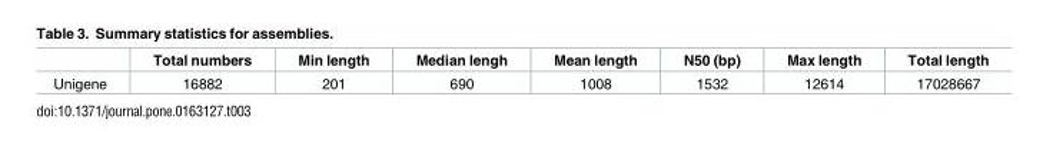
<table><thead><tr><td></td><td>Total numbers</td><td>Min length</td><td>Median lengh</td><td>Mean length</td><td>N50 (bp)</td><td>Max length</td><td>Total length</td></tr></thead><tbody><tr><td>Unigene</td><td>16882</td><td>201</td><td>690</td><td>1008</td><td>1532</td><td>12614</td><td>17028667</td></tr></tbody></table>